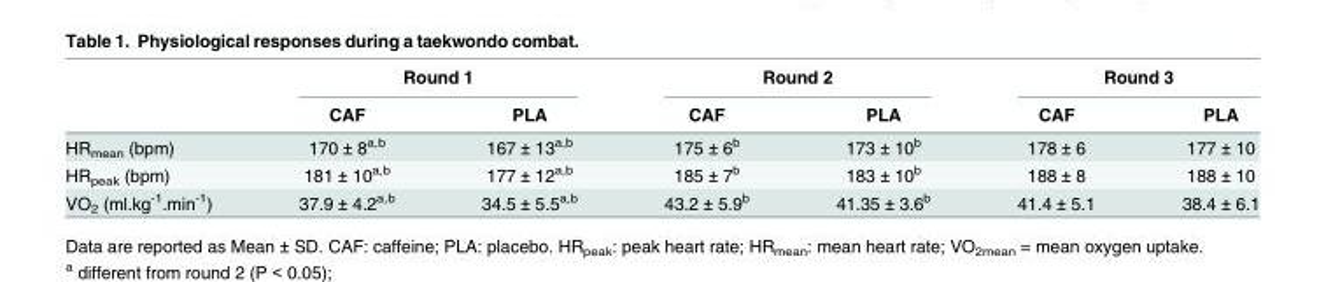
<table><thead><tr><td rowspan="2"></td><td colspan="2">Round 1</td><td colspan="2">Round 2</td><td colspan="2">Round 3</td></tr><tr><td>CAF</td><td>PLA</td><td>CAF</td><td>PLA</td><td>CAF</td><td>PLA</td></tr></thead><tbody><tr><td>HR<sub>mean</sub> (bpm)</td><td>170 ± 8<sup>a,b</sup></td><td>167 ± 13<sup>a,b</sup></td><td>175 ± 6<sup>b</sup></td><td>173 ± 10<sup>b</sup></td><td>178 ± 6</td><td>177 ± 10</td></tr><tr><td>HR<sub>peak</sub> (bpm)</td><td>181 ± 10<sup>a,b</sup></td><td>177 ± 12<sup>a,b</sup></td><td>185 ± 7<sup>b</sup></td><td>183 ± 10<sup>b</sup></td><td>188 ± 8</td><td>188 ± 10</td></tr><tr><td>VO<sub>2</sub> (ml.kg<sup>-1</sup>.min<sup>-1</sup>)</td><td>37.9 ± 4.2<sup>a,b</sup></td><td>34.5 ± 5.5<sup>a,b</sup></td><td>43.2 ± 5.9<sup>b</sup></td><td>41.35 ± 3.6<sup>b</sup></td><td>41.4 ± 5.1</td><td>38.4 ± 6.1</td></tr></tbody></table>